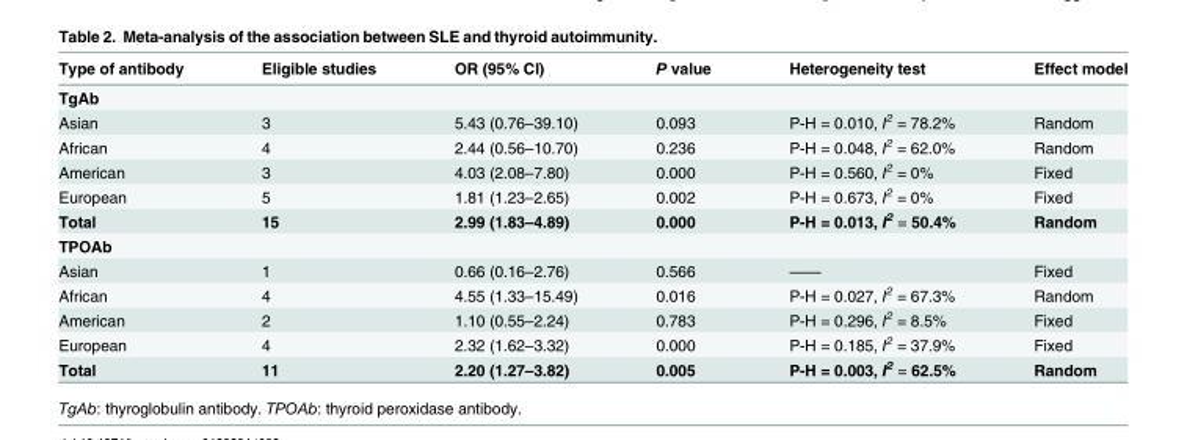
<table><thead><tr><td>Type of antibody</td><td>Eligible studies</td><td>OR (95% CI)</td><td>P value</td><td>Heterogeneity test</td><td>Effect model</td></tr></thead><tbody><tr><td colspan="6">TgAb</td></tr><tr><td>Asian</td><td>3</td><td>5.43 (0.76–39.10)</td><td>0.093</td><td>P-H = 0.010, I<sup>2</sup> = 78.2%</td><td>Random</td></tr><tr><td>African</td><td>4</td><td>2.44 (0.56–10.70)</td><td>0.236</td><td>P-H = 0.048, I<sup>2</sup> = 62.0%</td><td>Random</td></tr><tr><td>American</td><td>3</td><td>4.03 (2.08–7.80)</td><td>0.000</td><td>P-H = 0.560, I<sup>2</sup> = 0%</td><td>Fixed</td></tr><tr><td>European</td><td>5</td><td>1.81 (1.23–2.65)</td><td>0.002</td><td>P-H = 0.673, I<sup>2</sup> = 0%</td><td>Fixed</td></tr><tr><td>Total</td><td>15</td><td>2.99 (1.83–4.89)</td><td>0.000</td><td>P-H = 0.013, I<sup>2</sup> = 50.4%</td><td>Random</td></tr><tr><td colspan="6">TPOAb</td></tr><tr><td>Asian</td><td>1</td><td>0.66 (0.16–2.76)</td><td>0.566</td><td>——</td><td>Fixed</td></tr><tr><td>African</td><td>4</td><td>4.55 (1.33–15.49)</td><td>0.016</td><td>P-H = 0.027, I<sup>2</sup> = 67.3%</td><td>Random</td></tr><tr><td>American</td><td>2</td><td>1.10 (0.55–2.24)</td><td>0.783</td><td>P-H = 0.296, I<sup>2</sup> = 8.5%</td><td>Fixed</td></tr><tr><td>European</td><td>4</td><td>2.32 (1.62–3.32)</td><td>0.000</td><td>P-H = 0.185, I<sup>2</sup> = 37.9%</td><td>Fixed</td></tr><tr><td>Total</td><td>11</td><td>2.20 (1.27–3.82)</td><td>0.005</td><td>P-H = 0.003, I<sup>2</sup> = 62.5%</td><td>Random</td></tr></tbody></table>